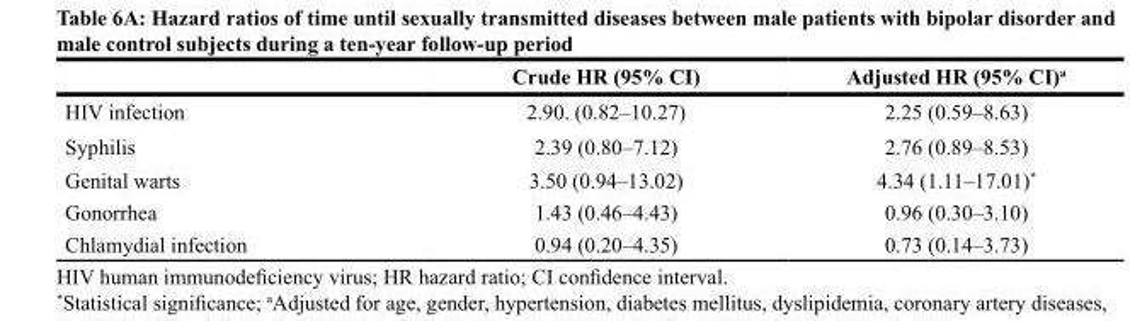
<table><thead><tr><td></td><td>Crude HR (95% CI)</td><td>Adjusted HR (95% CI)<sup>a</sup></td></tr></thead><tbody><tr><td>HIV infection</td><td>2.90. (0.82–10.27)</td><td>2.25 (0.59–8.63)</td></tr><tr><td>Syphilis</td><td>2.39 (0.80–7.12)</td><td>2.76 (0.89–8.53)</td></tr><tr><td>Genital warts</td><td>3.50 (0.94–13.02)</td><td>4.34 (1.11–17.01)*</td></tr><tr><td>Gonorrhea</td><td>1.43 (0.46–4.43)</td><td>0.96 (0.30–3.10)</td></tr><tr><td>Chlamydial infection</td><td>0.94 (0.20–4.35)</td><td>0.73 (0.14–3.73)</td></tr></tbody></table>